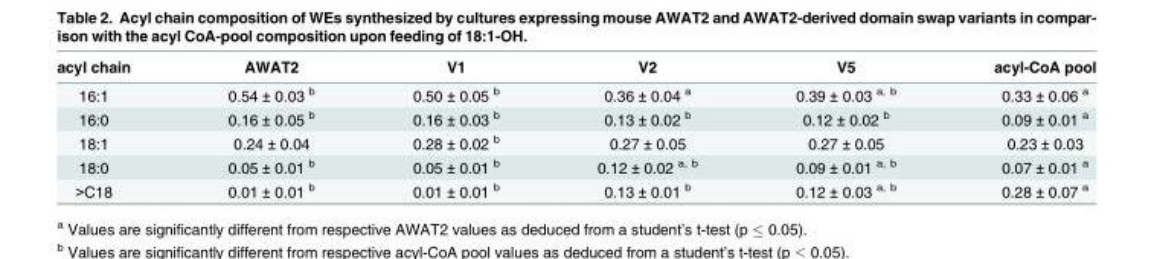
<table><thead><tr><td>acyl chain</td><td>AWAT2</td><td>V1</td><td>V2</td><td>V5</td><td>acyl-CoA pool</td></tr></thead><tbody><tr><td>16:1</td><td>0.54 ± 0.03 <sup>b</sup></td><td>0.50 ± 0.05 <sup>b</sup></td><td>0.36 ± 0.04 <sup>a</sup></td><td>0.39 ± 0.03 <sup>a, b</sup></td><td>0.33 ± 0.06 <sup>a</sup></td></tr><tr><td>16:0</td><td>0.16 ± 0.05 <sup>b</sup></td><td>0.16 ± 0.03 <sup>b</sup></td><td>0.13 ± 0.02 <sup>b</sup></td><td>0.12 ± 0.02 <sup>b</sup></td><td>0.09 ± 0.01 <sup>a</sup></td></tr><tr><td>18:1</td><td>0.24 ± 0.04</td><td>0.28 ± 0.02 <sup>b</sup></td><td>0.27 ± 0.05</td><td>0.27 ± 0.05</td><td>0.23 ± 0.03</td></tr><tr><td>18:0</td><td>0.05 ± 0.01 <sup>b</sup></td><td>0.05 ± 0.01 <sup>b</sup></td><td>0.12 ± 0.02 <sup>a, b</sup></td><td>0.09 ± 0.01 <sup>a, b</sup></td><td>0.07 ± 0.01 <sup>a</sup></td></tr><tr><td>&gt;C18</td><td>0.01 ± 0.01 <sup>b</sup></td><td>0.01 ± 0.01 <sup>b</sup></td><td>0.13 ± 0.01 <sup>b</sup></td><td>0.12 ± 0.03 <sup>a, b</sup></td><td>0.28 ± 0.07 <sup>a</sup></td></tr></tbody></table>